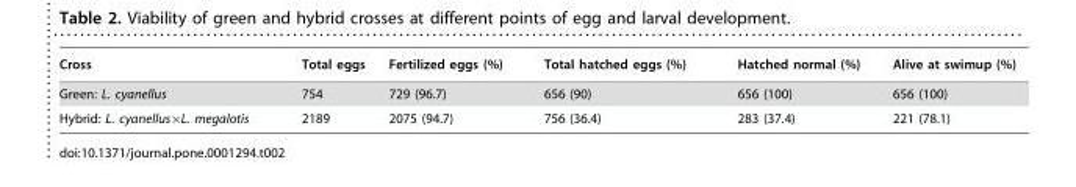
<table><thead><tr><td>Cross</td><td>Total eggs</td><td>Fertilized eggs (%)</td><td>Total hatched eggs (%)</td><td>Hatched normal (%)</td><td>Alive at swimup (%)</td></tr></thead><tbody><tr><td>Green: L. cyanellus</td><td>754</td><td>729 (96.7)</td><td>656 (90)</td><td>656 (100)</td><td>656 (100)</td></tr><tr><td>Hybrid: L. cyanellus×L. megalotis</td><td>2189</td><td>2075 (94.7)</td><td>756 (36.4)</td><td>283 (37.4)</td><td>221 (78.1)</td></tr></tbody></table>